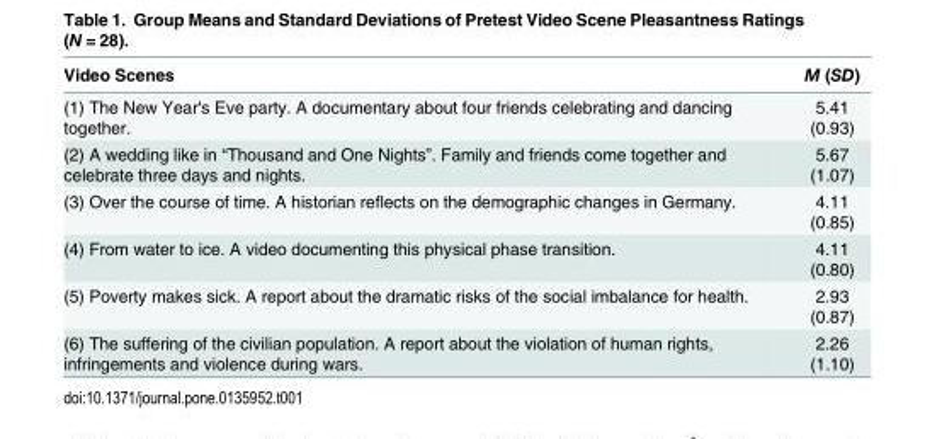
<table><thead><tr><td>Video Scenes</td><td>M (SD)</td></tr></thead><tbody><tr><td>(1) The New Year&#x27;s Eve party. A documentary about four friends celebrating and dancing together.</td><td>5.41 (0.93)</td></tr><tr><td>(2) A wedding like in “Thousand and One Nights”. Family and friends come together and celebrate three days and nights.</td><td>5.67 (1.07)</td></tr><tr><td>(3) Over the course of time. A historian reflects on the demographic changes in Germany.</td><td>4.11 (0.85)</td></tr><tr><td>(4) From water to ice. A video documenting this physical phase transition.</td><td>4.11 (0.80)</td></tr><tr><td>(5) Poverty makes sick. A report about the dramatic risks of the social imbalance for health.</td><td>2.93 (0.87)</td></tr><tr><td>(6) The suffering of the civilian population. A report about the violation of human rights, infringements and violence during wars.</td><td>2.26 (1.10)</td></tr></tbody></table>